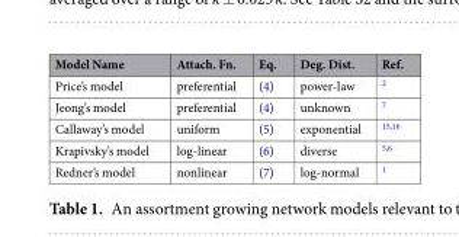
<table><thead><tr><td>Model Name</td><td>Attach. Fn.</td><td>Eq.</td><td>Deg. Dist.</td><td>Ref.</td></tr></thead><tbody><tr><td>Price’s model</td><td>preferential</td><td>(4)</td><td>power-law</td><td><sup>2</sup></td></tr><tr><td>Jeong’s model</td><td>preferential</td><td>(4)</td><td>unknown</td><td><sup>7</sup></td></tr><tr><td>Callaway’s model</td><td>uniform</td><td>(5)</td><td>exponential</td><td><sup>15,16</sup></td></tr><tr><td>Krapivsky’s model</td><td>log-linear</td><td>(6)</td><td>diverse</td><td><sup>5,6</sup></td></tr><tr><td>Redner’s model</td><td>nonlinear</td><td>(7)</td><td>log-normal</td><td><sup>1</sup></td></tr></tbody></table>